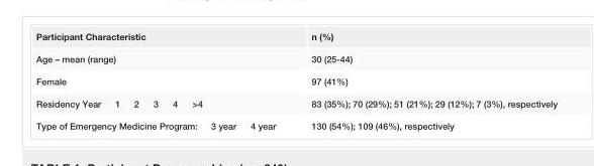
<table><tbody><tr><td>Participant Characteristic</td><td>n (%)</td></tr><tr><td>Age – mean (range)</td><td>30 (25-44)</td></tr><tr><td>Female</td><td>97 (41%)</td></tr><tr><td>Residency Year 1 2 3 4 &gt;4</td><td>83 (35%); 70 (29%); 51 (21%); 29 (12%); 7 (3%), respectively</td></tr><tr><td>Type of Emergency Medicine Program: 3 year 4 year</td><td>130 (54%); 109 (46%), respectively</td></tr></tbody></table>